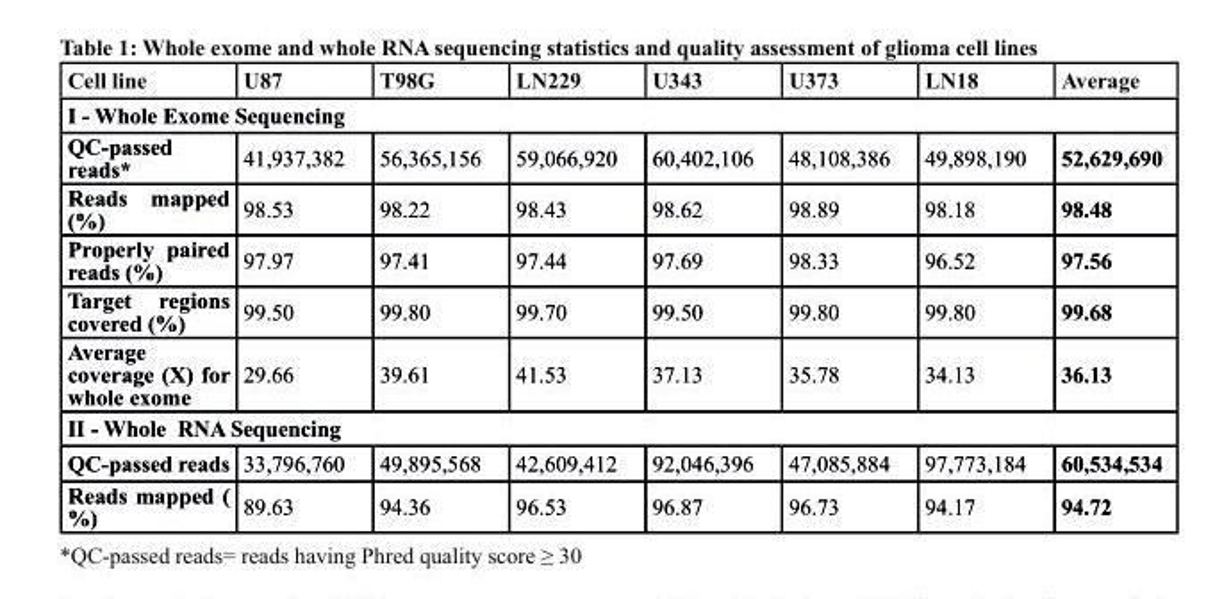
<table><thead><tr><td>cell line</td><td>U87</td><td>t98G</td><td>LN229</td><td>U343</td><td>U373</td><td>LN18</td><td>Average</td></tr></thead><tbody><tr><td colspan="8">I - Whole Exome Sequencing</td></tr><tr><td>Qc-passed reads*</td><td>41,937,382</td><td>56,365,156</td><td>59,066,920</td><td>60,402,106</td><td>48,108,386</td><td>49,898,190</td><td>52,629,690</td></tr><tr><td>reads mapped (%)</td><td>98.53</td><td>98.22</td><td>98.43</td><td>98.62</td><td>98.89</td><td>98.18</td><td>98.48</td></tr><tr><td>Properly paired reads (%)</td><td>97.97</td><td>97.41</td><td>97.44</td><td>97.69</td><td>98.33</td><td>96.52</td><td>97.56</td></tr><tr><td>Target regions covered (%)</td><td>99.50</td><td>99.80</td><td>99.70</td><td>99.50</td><td>99.80</td><td>99.80</td><td>99.68</td></tr><tr><td>Average coverage (X) for whole exome</td><td>29.66</td><td>39.61</td><td>41.53</td><td>37.13</td><td>35.78</td><td>34.13</td><td>36.13</td></tr><tr><td colspan="8">II - Whole RNA Sequencing</td></tr><tr><td>QC-passed reads</td><td>33,796,760</td><td>49,895,568</td><td>42,609,412</td><td>92,046,396</td><td>47,085,884</td><td>97,773,184</td><td>60,534,534</td></tr><tr><td>reads mapped ( %)</td><td>89.63</td><td>94.36</td><td>96.53</td><td>96.87</td><td>96.73</td><td>94.17</td><td>94.72</td></tr></tbody></table>